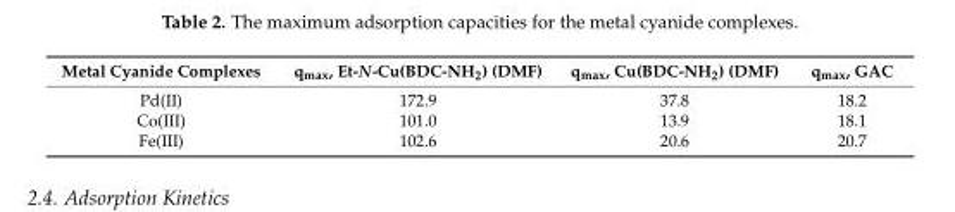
<table><thead><tr><td>Metal Cyanide Complexes</td><td>qmax, Et-N-Cu(BDC-NH2) (DMF)</td><td>qmax, Cu(BDC-NH2) (DMF)</td><td>qmax, GAC</td></tr></thead><tbody><tr><td>Pd(II)</td><td>172.9</td><td>37.8</td><td>18.2</td></tr><tr><td>Co(III)</td><td>101.0</td><td>13.9</td><td>18.1</td></tr><tr><td>Fe(III)</td><td>102.6</td><td>20.6</td><td>20.7</td></tr></tbody></table>